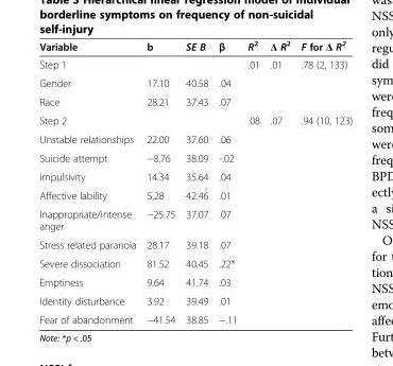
<table><thead><tr><td>Variable</td><td>b</td><td>SE B</td><td>β</td><td>R<sup>2</sup></td><td>Δ R<sup>2</sup></td><td>F for Δ R<sup>2</sup></td></tr></thead><tbody><tr><td>Step 1</td><td></td><td></td><td></td><td>.01</td><td>.01</td><td>.78 (2, 133)</td></tr><tr><td>Gender</td><td>17.10</td><td>40.58</td><td>.04</td><td></td><td></td><td></td></tr><tr><td>Race</td><td>28.21</td><td>37.43</td><td>.07</td><td></td><td></td><td></td></tr><tr><td>Step 2</td><td></td><td></td><td></td><td>.08</td><td>.07</td><td>.94 (10, 123)</td></tr><tr><td>Unstable relationships</td><td>22.00</td><td>37.60</td><td>.06</td><td></td><td></td><td></td></tr><tr><td>Suicide attempt</td><td>−8.76</td><td>38.09</td><td>-.02</td><td></td><td></td><td></td></tr><tr><td>Impulsivity</td><td>14.34</td><td>35.64</td><td>.04</td><td></td><td></td><td></td></tr><tr><td>Affective lability</td><td>5.28</td><td>42.46</td><td>.01</td><td></td><td></td><td></td></tr><tr><td>Inappropriate/intense anger</td><td>−25.75</td><td>37.07</td><td>.07</td><td></td><td></td><td></td></tr><tr><td>Stress related paranoia</td><td>28.17</td><td>39.18</td><td>.07</td><td></td><td></td><td></td></tr><tr><td>Severe dissociation</td><td>81.52</td><td>40.45</td><td>.22*</td><td></td><td></td><td></td></tr><tr><td>Emptiness</td><td>9.64</td><td>41.74</td><td>.03</td><td></td><td></td><td></td></tr><tr><td>Identity disturbance</td><td>3.92</td><td>39.49</td><td>.01</td><td></td><td></td><td></td></tr><tr><td>Fear of abandonment</td><td>−41.54</td><td>38.85</td><td>−.11</td><td></td><td></td><td></td></tr></tbody></table>